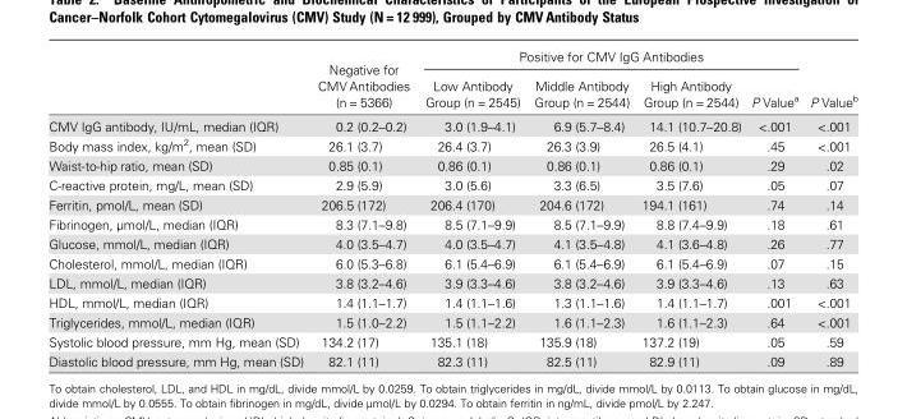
<table><thead><tr><td rowspan="2"></td><td rowspan="2">Negative for CMV Antibodies (n = 5366)</td><td colspan="4">Positive for CMV IgG Antibodies</td><td rowspan="2">P Value<sup>b</sup></td></tr><tr><td>Low Antibody Group (n = 2545)</td><td>Middle Antibody Group (n = 2544)</td><td>High Antibody Group (n = 2544)</td><td>P Value<sup>a</sup></td></tr></thead><tbody><tr><td>CMV IgG antibody, IU/mL, median (IQR)</td><td>0.2 (0.2–0.2)</td><td>3.0 (1.9–4.1)</td><td>6.9 (5.7–8.4)</td><td>14.1 (10.7–20.8)</td><td>&lt;.001</td><td>&lt;.001</td></tr><tr><td>Body mass index, kg/m<sup>2</sup>, mean (SD)</td><td>26.1 (3.7)</td><td>26.4 (3.7)</td><td>26.3 (3.9)</td><td>26.5 (4.1)</td><td>.45</td><td>&lt;.001</td></tr><tr><td>Waist-to-hip ratio, mean (SD)</td><td>0.85 (0.1)</td><td>0.86 (0.1)</td><td>0.86 (0.1)</td><td>0.86 (0.1)</td><td>.29</td><td>.02</td></tr><tr><td>C-reactive protein, mg/L, mean (SD)</td><td>2.9 (5.9)</td><td>3.0 (5.6)</td><td>3.3 (6.5)</td><td>3.5 (7.6)</td><td>.05</td><td>.07</td></tr><tr><td>Ferritin, pmol/L, mean (SD)</td><td>206.5 (172)</td><td>206.4 (170)</td><td>204.6 (172)</td><td>194.1 (161)</td><td>.74</td><td>.14</td></tr><tr><td>Fibrinogen, µmol/L, median (IQR)</td><td>8.3 (7.1–9.8)</td><td>8.5 (7.1–9.9)</td><td>8.5 (7.1–9.9)</td><td>8.8 (7.4–9.9)</td><td>.18</td><td>.61</td></tr><tr><td>Glucose, mmol/L, median (IQR)</td><td>4.0 (3.5–4.7)</td><td>4.0 (3.5–4.7)</td><td>4.1 (3.5–4.8)</td><td>4.1 (3.6–4.8)</td><td>.26</td><td>.77</td></tr><tr><td>Cholesterol, mmol/L, median (IQR)</td><td>6.0 (5.3–6.8)</td><td>6.1 (5.4–6.9)</td><td>6.1 (5.4–6.9)</td><td>6.1 (5.4–6.9)</td><td>.07</td><td>.15</td></tr><tr><td>LDL, mmol/L, median (IQR)</td><td>3.8 (3.2–4.6)</td><td>3.9 (3.3–4.6)</td><td>3.8 (3.2–4.6)</td><td>3.9 (3.3–4.6)</td><td>.13</td><td>.63</td></tr><tr><td>HDL, mmol/L, median (IQR)</td><td>1.4 (1.1–1.7)</td><td>1.4 (1.1–1.6)</td><td>1.3 (1.1–1.6)</td><td>1.4 (1.1–1.7)</td><td>.001</td><td>&lt;.001</td></tr><tr><td>Triglycerides, mmol/L, median (IQR)</td><td>1.5 (1.0–2.2)</td><td>1.5 (1.1–2.2)</td><td>1.6 (1.1–2.3)</td><td>1.6 (1.1–2.3)</td><td>.64</td><td>&lt;.001</td></tr><tr><td>Systolic blood pressure, mm Hg, mean (SD)</td><td>134.2 (17)</td><td>135.1 (18)</td><td>135.9 (18)</td><td>137.2 (19)</td><td>.05</td><td>.59</td></tr><tr><td>Diastolic blood pressure, mm Hg, mean (SD)</td><td>82.1 (11)</td><td>82.3 (11)</td><td>82.5 (11)</td><td>82.9 (11)</td><td>.09</td><td>.89</td></tr></tbody></table>